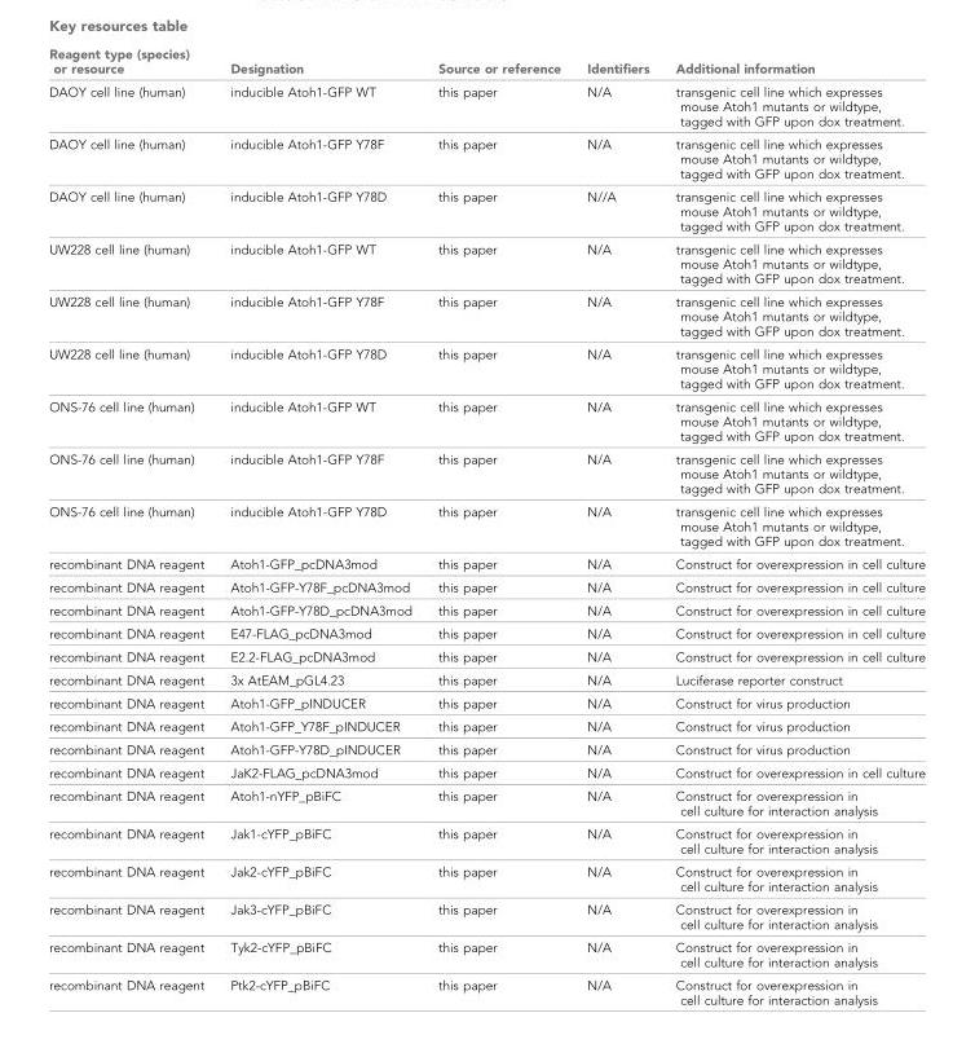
<table><thead><tr><td>Reagent type (species) or resource</td><td>Designation</td><td>Source or reference</td><td>Identifiers</td><td>Additional information</td></tr></thead><tbody><tr><td>DAOY cell line (human)</td><td>inducible Atoh1-GFP WT</td><td>this paper</td><td>N/A</td><td>transgenic cell line which expresses mouse Atoh1 mutants or wildtype, tagged with GFP upon dox treatment.</td></tr><tr><td>DAOY cell line (human)</td><td>inducible Atoh1-GFP Y78F</td><td>this paper</td><td>N/A</td><td>transgenic cell line which expresses mouse Atoh1 mutants or wildtype, tagged with GFP upon dox treatment.</td></tr><tr><td>DAOY cell line (human)</td><td>inducible Atoh1-GFP Y78D</td><td>this paper</td><td>N//A</td><td>transgenic cell line which expresses mouse Atoh1 mutants or wildtype, tagged with GFP upon dox treatment.</td></tr><tr><td>UW228 cell line (human)</td><td>inducible Atoh1-GFP WT</td><td>this paper</td><td>N/A</td><td>transgenic cell line which expresses mouse Atoh1 mutants or wildtype, tagged with GFP upon dox treatment.</td></tr><tr><td>UW228 cell line (human)</td><td>inducible Atoh1-GFP Y78F</td><td>this paper</td><td>N/A</td><td>transgenic cell line which expresses mouse Atoh1 mutants or wildtype, tagged with GFP upon dox treatment.</td></tr><tr><td>UW228 cell line (human)</td><td>inducible Atoh1-GFP Y78D</td><td>this paper</td><td>N/A</td><td>transgenic cell line which expresses mouse Atoh1 mutants or wildtype, tagged with GFP upon dox treatment.</td></tr><tr><td>ONS-76 cell line (human)</td><td>inducible Atoh1-GFP WT</td><td>this paper</td><td>N/A</td><td>transgenic cell line which expresses mouse Atoh1 mutants or wildtype, tagged with GFP upon dox treatment.</td></tr><tr><td>ONS-76 cell line (human)</td><td>inducible Atoh1-GFP Y78F</td><td>this paper</td><td>N/A</td><td>transgenic cell line which expresses mouse Atoh1 mutants or wildtype, tagged with GFP upon dox treatment.</td></tr><tr><td>ONS-76 cell line (human)</td><td>inducible Atoh1-GFP Y78D</td><td>this paper</td><td>N/A</td><td>transgenic cell line which expresses mouse Atoh1 mutants or wildtype, tagged with GFP upon dox treatment.</td></tr><tr><td>recombinant DNA reagent</td><td>Atoh1-GFP_pcDNA3mod</td><td>this paper</td><td>N/A</td><td>Construct for overexpression in cell culture</td></tr><tr><td>recombinant DNA reagent</td><td>Atoh1-GFP-Y78F_pcDNA3mod</td><td>this paper</td><td>N/A</td><td>Construct for overexpression in cell culture</td></tr><tr><td>recombinant DNA reagent</td><td>Atoh1-GFP-Y78D_pcDNA3mod</td><td>this paper</td><td>N/A</td><td>Construct for overexpression in cell culture</td></tr><tr><td>recombinant DNA reagent</td><td>E47-FLAG_pcDNA3mod</td><td>this paper</td><td>N/A</td><td>Construct for overexpression in cell culture</td></tr><tr><td>recombinant DNA reagent</td><td>E2.2-FLAG_pcDNA3mod</td><td>this paper</td><td>N/A</td><td>Construct for overexpression in cell culture</td></tr><tr><td>recombinant DNA reagent</td><td>3x AtEAM_pGL4.23</td><td>this paper</td><td>N/A</td><td>Luciferase reporter construct</td></tr><tr><td>recombinant DNA reagent</td><td>Atoh1-GFP_pINDUCER</td><td>this paper</td><td>N/A</td><td>Construct for virus production</td></tr><tr><td>recombinant DNA reagent</td><td>Atoh1-GFP_Y78F_pINDUCER</td><td>this paper</td><td>N/A</td><td>Construct for virus production</td></tr><tr><td>recombinant DNA reagent</td><td>Atoh1-GFP-Y78D_pINDUCER</td><td>this paper</td><td>N/A</td><td>Construct for virus production</td></tr><tr><td>recombinant DNA reagent</td><td>JaK2-FLAG_pcDNA3mod</td><td>this paper</td><td>N/A</td><td>Construct for overexpression in cell culture</td></tr><tr><td>recombinant DNA reagent</td><td>Atoh1-nYFP_pBiFC</td><td>this paper</td><td>N/A</td><td>Construct for overexpression in cell culture for interaction analysis</td></tr><tr><td>recombinant DNA reagent</td><td>Jak1-cYFP_pBiFC</td><td>this paper</td><td>N/A</td><td>Construct for overexpression in cell culture for interaction analysis</td></tr><tr><td>recombinant DNA reagent</td><td>Jak2-cYFP_pBiFC</td><td>this paper</td><td>N/A</td><td>Construct for overexpression in cell culture for interaction analysis</td></tr><tr><td>recombinant DNA reagent</td><td>Jak3-cYFP_pBiFC</td><td>this paper</td><td>N/A</td><td>Construct for overexpression in cell culture for interaction analysis</td></tr><tr><td>recombinant DNA reagent</td><td>Tyk2-cYFP_pBiFC</td><td>this paper</td><td>N/A</td><td>Construct for overexpression in cell culture for interaction analysis</td></tr><tr><td>recombinant DNA reagent</td><td>Ptk2-cYFP_pBiFC</td><td>this paper</td><td>N/A</td><td>Construct for overexpression in cell culture for interaction analysis</td></tr></tbody></table>